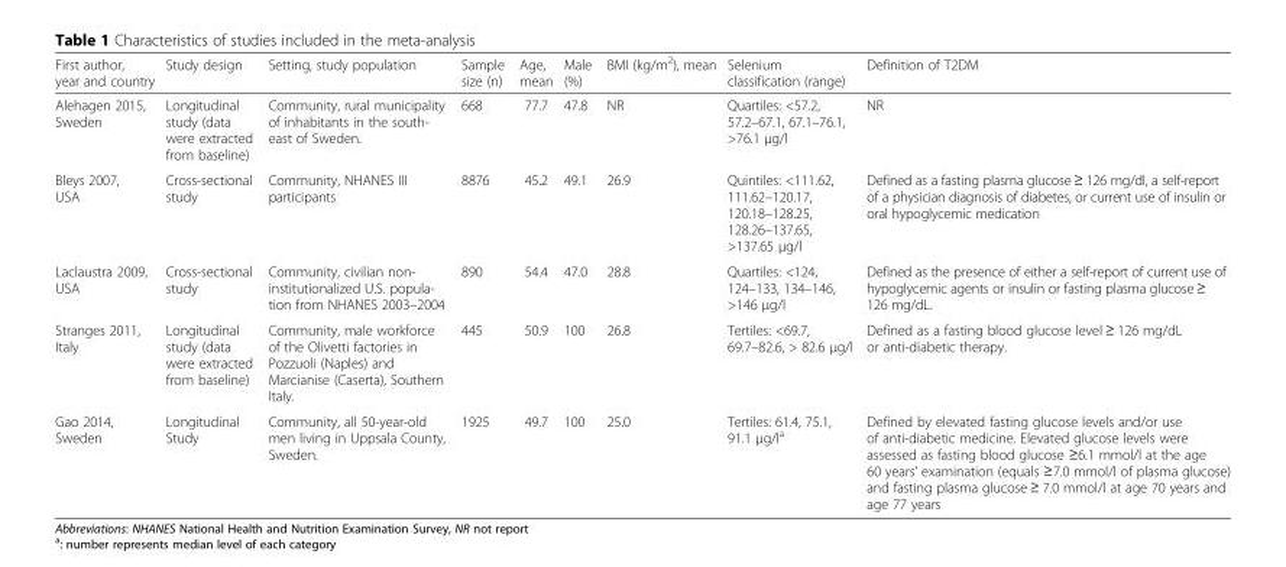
<table><thead><tr><td>First author, year and country</td><td>Study design</td><td>Setting, study population</td><td>Sample size (n)</td><td>Age, mean</td><td>Male (%)</td><td>BMI (kg/m<sup>2</sup>), mean</td><td>Selenium classification (range)</td><td>Definition of T2DM</td></tr></thead><tbody><tr><td>Alehagen 2015, Sweden</td><td>Longitudinal study (data were extracted from baseline)</td><td>Community, rural municipality of inhabitants in the south- east of Sweden.</td><td>668</td><td>77.7</td><td>47.8</td><td>NR</td><td>Quartiles: &lt;57.2, 57.2–67.1, 67.1–76.1, &gt;76.1 μg/l</td><td>NR</td></tr><tr><td>Bleys 2007, USA</td><td>Cross-sectional study</td><td>Community, NHANES III participants</td><td>8876</td><td>45.2</td><td>49.1</td><td>26.9</td><td>Quintiles: &lt;111.62, 111.62–120.17, 120.18–128.25, 128.26–137.65, &gt;137.65 μg/l</td><td>Defined as a fasting plasma glucose ≥ 126 mg/dl, a self-report of a physician diagnosis of diabetes, or current use of insulin or oral hypoglycemic medication</td></tr><tr><td>Laclaustra 2009, USA</td><td>Cross-sectional study</td><td>Community, civilian non- institutionalized U.S. popula- tion from NHANES 2003–2004</td><td>890</td><td>54.4</td><td>47.0</td><td>28.8</td><td>Quartiles: &lt;124, 124–133, 134–146, &gt;146 μg/l</td><td>Defined as the presence of either a self-report of current use of hypoglycemic agents or insulin or fasting plasma glucose ≥ 126 mg/dL.</td></tr><tr><td>Stranges 2011, Italy</td><td>Longitudinal study (data were extracted from baseline)</td><td>Community, male workforce of the Olivetti factories in Pozzuoli (Naples) and Marcianise (Caserta), Southern Italy.</td><td>445</td><td>50.9</td><td>100</td><td>26.8</td><td>Tertiles: &lt;69.7, 69.7–82.6, &gt; 82.6 μg/l</td><td>Defined as a fasting blood glucose level ≥ 126 mg/dL or anti-diabetic therapy.</td></tr><tr><td>Gao 2014, Sweden</td><td>Longitudinal Study</td><td>Community, all 50-year-old men living in Uppsala County, Sweden.</td><td>1925</td><td>49.7</td><td>100</td><td>25.0</td><td>Tertiles: 61.4, 75.1, 91.1 μg/l<sup>a</sup></td><td>Defined by elevated fasting glucose levels and/or use of anti-diabetic medicine. Elevated glucose levels were assessed as fasting blood glucose ≥6.1 mmol/l at the age 60 years’ examination (equals ≥7.0 mmol/l of plasma glucose) and fasting plasma glucose ≥ 7.0 mmol/l at age 70 years and age 77 years</td></tr></tbody></table>